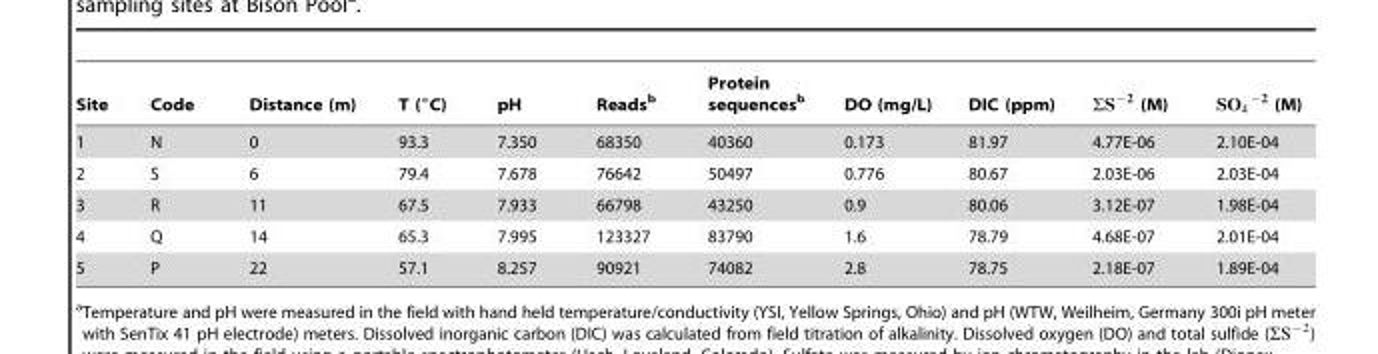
<table><thead><tr><td>Site</td><td>Code</td><td>Distance (m)</td><td>T (°C)</td><td>pH</td><td>Reads<sup>b</sup></td><td>Protein sequences<sup>b</sup></td><td>DO (mg/L)</td><td>DIC (ppm)</td><td>SS{2 (M)</td><td>SO4 {2 (M)</td></tr></thead><tbody><tr><td>1</td><td>N</td><td>0</td><td>93.3</td><td>7.350</td><td>68350</td><td>40360</td><td>0.173</td><td>81.97</td><td>4.77E-06</td><td>2.10E-04</td></tr><tr><td>2</td><td>S</td><td>6</td><td>79.4</td><td>7.678</td><td>76642</td><td>50497</td><td>0.776</td><td>80.67</td><td>2.03E-06</td><td>2.03E-04</td></tr><tr><td>3</td><td>R</td><td>11</td><td>67.5</td><td>7.933</td><td>66798</td><td>43250</td><td>0.9</td><td>80.06</td><td>3.12E-07</td><td>1.98E-04</td></tr><tr><td>4</td><td>Q</td><td>14</td><td>65.3</td><td>7.995</td><td>123327</td><td>83790</td><td>1.6</td><td>78.79</td><td>4.68E-07</td><td>2.01E-04</td></tr><tr><td>5</td><td>P</td><td>22</td><td>57.1</td><td>8.257</td><td>90921</td><td>74082</td><td>2.8</td><td>78.75</td><td>2.18E-07</td><td>1.89E-04</td></tr></tbody></table>